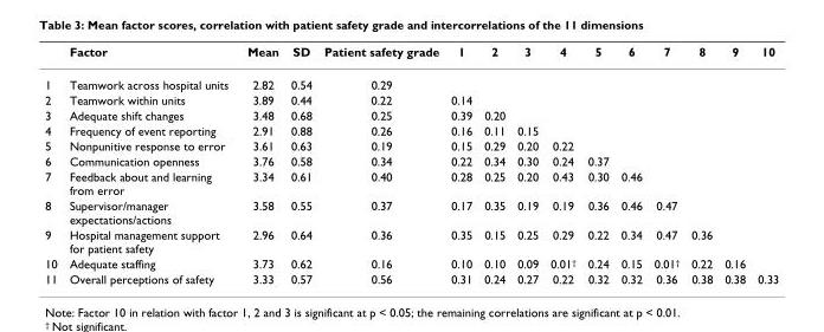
<table><thead><tr><td></td><td>Factor</td><td>Mean</td><td>SD</td><td>Patient safety grade</td><td>1</td><td>2</td><td>3</td><td>4</td><td>5</td><td>6</td><td>7</td><td>8</td><td>9</td><td>10</td></tr></thead><tbody><tr><td>1</td><td>Teamwork across hospital units</td><td>2.82</td><td>0.54</td><td>0.29</td><td></td><td></td><td></td><td></td><td></td><td></td><td></td><td></td><td></td><td></td></tr><tr><td>2</td><td>Teamwork within units</td><td>3.89</td><td>0.44</td><td>0.22</td><td>0.14</td><td></td><td></td><td></td><td></td><td></td><td></td><td></td><td></td><td></td></tr><tr><td>3</td><td>Adequate shift changes</td><td>3.48</td><td>0.68</td><td>0.25</td><td>0.39</td><td>0.20</td><td></td><td></td><td></td><td></td><td></td><td></td><td></td><td></td></tr><tr><td>4</td><td>Frequency of event reporting</td><td>2.91</td><td>0.88</td><td>0.26</td><td>0.16</td><td>0.11</td><td>0.15</td><td></td><td></td><td></td><td></td><td></td><td></td><td></td></tr><tr><td>5</td><td>Nonpunitive response to error</td><td>3.61</td><td>0.63</td><td>0.19</td><td>0.15</td><td>0.29</td><td>0.20</td><td>0.22</td><td></td><td></td><td></td><td></td><td></td><td></td></tr><tr><td>6</td><td>Communication openness</td><td>3.76</td><td>0.58</td><td>0.34</td><td>0.22</td><td>0.34</td><td>0.30</td><td>0.24</td><td>0.37</td><td></td><td></td><td></td><td></td><td></td></tr><tr><td>7</td><td>Feedback about and learning from error</td><td>3.34</td><td>0.61</td><td>0.40</td><td>0.28</td><td>0.25</td><td>0.20</td><td>0.43</td><td>0.30</td><td>0.46</td><td></td><td></td><td></td><td></td></tr><tr><td>8</td><td>Supervisor/manager expectations/actions</td><td>3.58</td><td>0.55</td><td>0.37</td><td>0.17</td><td>0.35</td><td>0.19</td><td>0.19</td><td>0.36</td><td>0.46</td><td>0.47</td><td></td><td></td><td></td></tr><tr><td>9</td><td>Hospital management support for patient safety</td><td>2.96</td><td>0.64</td><td>0.36</td><td>0.35</td><td>0.15</td><td>0.25</td><td>0.29</td><td>0.22</td><td>0.34</td><td>0.47</td><td>0.36</td><td></td><td></td></tr><tr><td>10</td><td>Adequate staffing</td><td>3.73</td><td>0.62</td><td>0.16</td><td>0.10</td><td>0.10</td><td>0.09</td><td>0.01<sup>†</sup></td><td>0.24</td><td>0.15</td><td>0.01<sup>†</sup></td><td>0.22</td><td>0.16</td><td></td></tr><tr><td>11</td><td>Overall perceptions of safety</td><td>3.33</td><td>0.57</td><td>0.56</td><td>0.31</td><td>0.24</td><td>0.27</td><td>0.22</td><td>0.32</td><td>0.32</td><td>0.36</td><td>0.38</td><td>0.38</td><td>0.33</td></tr></tbody></table>